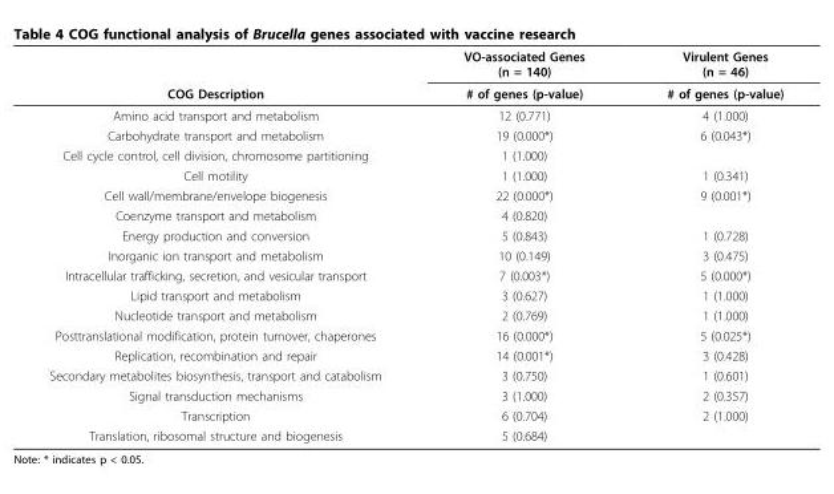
<table><thead><tr><td rowspan="2">COG Description</td><td rowspan="2">VO-associated Genes (n = 140) # of genes (p-value)</td><td rowspan="2">Virulent Genes (n = 46) # of genes (p-value)</td></tr><tr></tr></thead><tbody><tr><td>Amino acid transport and metabolism</td><td>12 (0.771)</td><td>4 (1.000)</td></tr><tr><td>Carbohydrate transport and metabolism</td><td>19 (0.000*)</td><td>6 (0.043*)</td></tr><tr><td>Cell cycle control, cell division, chromosome partitioning</td><td>1 (1.000)</td><td></td></tr><tr><td>Cell motility</td><td>1 (1.000)</td><td>1 (0.341)</td></tr><tr><td>Cell wall/membrane/envelope biogenesis</td><td>22 (0.000*)</td><td>9 (0.001*)</td></tr><tr><td>Coenzyme transport and metabolism</td><td>4 (0.820)</td><td></td></tr><tr><td>Energy production and conversion</td><td>5 (0.843)</td><td>1 (0.728)</td></tr><tr><td>Inorganic ion transport and metabolism</td><td>10 (0.149)</td><td>3 (0.475)</td></tr><tr><td>Intracellular trafficking, secretion, and vesicular transport</td><td>7 (0.003*)</td><td>5 (0.000*)</td></tr><tr><td>Lipid transport and metabolism</td><td>3 (0.627)</td><td>1 (1.000)</td></tr><tr><td>Nucleotide transport and metabolism</td><td>2 (0.769)</td><td>1 (1.000)</td></tr><tr><td>Posttranslational modification, protein turnover, chaperones</td><td>16 (0.000*)</td><td>5 (0.025*)</td></tr><tr><td>Replication, recombination and repair</td><td>14 (0.001*)</td><td>3 (0.428)</td></tr><tr><td>Secondary metabolites biosynthesis, transport and catabolism</td><td>3 (0.750)</td><td>1 (0.601)</td></tr><tr><td>Signal transduction mechanisms</td><td>3 (1.000)</td><td>2 (0.357)</td></tr><tr><td>Transcription</td><td>6 (0.704)</td><td>2 (1.000)</td></tr><tr><td>Translation, ribosomal structure and biogenesis</td><td>5 (0.684)</td><td></td></tr></tbody></table>